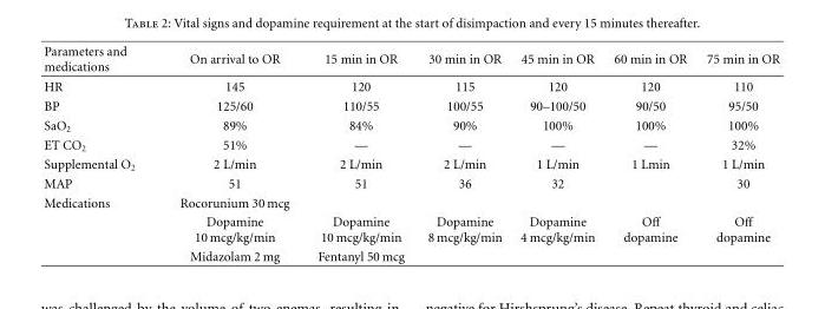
<table><thead><tr><td>Parameters and medications</td><td>On arrival to OR</td><td>15 min in OR</td><td>30 min in OR</td><td>45 min in OR</td><td>60 min in OR</td><td>75 min in OR</td></tr></thead><tbody><tr><td>HR</td><td>145</td><td>120</td><td>115</td><td>120</td><td>120</td><td>110</td></tr><tr><td>BP</td><td>125/60</td><td>110/55</td><td>100/55</td><td>90–100/50</td><td>90/50</td><td>95/50</td></tr><tr><td>SaO<sub>2</sub></td><td>89%</td><td>84%</td><td>90%</td><td>100%</td><td>100%</td><td>100%</td></tr><tr><td>ET CO<sub>2</sub></td><td>51%</td><td>—</td><td>—</td><td>—</td><td>—</td><td>32%</td></tr><tr><td>Supplemental O<sub>2</sub></td><td>2 L/min</td><td>2 L/min</td><td>2 L/min</td><td>1 L/min</td><td>1 Lmin</td><td>1 L/min</td></tr><tr><td>MAP</td><td>51</td><td>51</td><td>36</td><td>32</td><td></td><td>30</td></tr><tr><td rowspan="3">Medications</td><td>Rocorunium 30 mcg</td><td></td><td></td><td></td><td></td><td></td></tr><tr><td>Dopamine 10 mcg/kg/min</td><td>Dopamine 10 mcg/kg/min</td><td>Dopamine 8 mcg/kg/min</td><td>Dopamine 4 mcg/kg/min</td><td>Off dopamine</td><td>Off dopamine</td></tr><tr><td>Midazolam 2 mg</td><td>Fentanyl 50 mcg</td><td></td><td></td><td></td><td></td></tr></tbody></table>